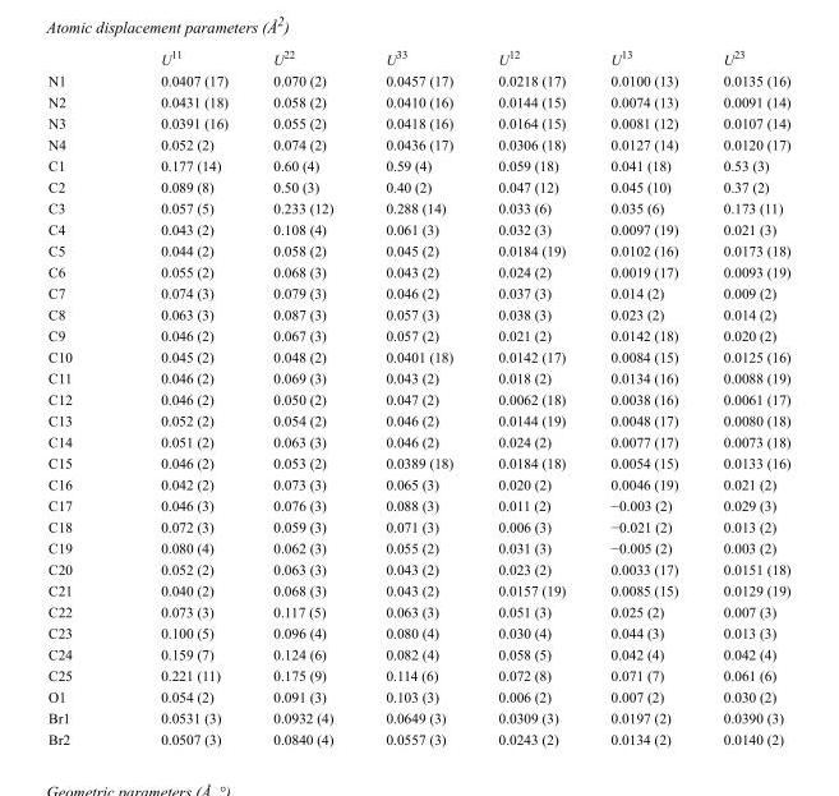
<table><thead><tr><td></td><td>U<sup>11</sup></td><td>U<sup>22</sup></td><td>U<sup>33</sup></td><td>U<sup>12</sup></td><td>U<sup>13</sup></td><td>U<sup>23</sup></td></tr></thead><tbody><tr><td>N1</td><td>0.0407 (17)</td><td>0.070 (2)</td><td>0.0457 (17)</td><td>0.0218 (17)</td><td>0.0100 (13)</td><td>0.0135 (16)</td></tr><tr><td>N2</td><td>0.0431 (18)</td><td>0.058 (2)</td><td>0.0410 (16)</td><td>0.0144 (15)</td><td>0.0074 (13)</td><td>0.0091 (14)</td></tr><tr><td>N3</td><td>0.0391 (16)</td><td>0.055 (2)</td><td>0.0418 (16)</td><td>0.0164 (15)</td><td>0.0081 (12)</td><td>0.0107 (14)</td></tr><tr><td>N4</td><td>0.052 (2)</td><td>0.074 (2)</td><td>0.0436 (17)</td><td>0.0306 (18)</td><td>0.0127 (14)</td><td>0.0120 (17)</td></tr><tr><td>C1</td><td>0.177 (14)</td><td>0.60 (4)</td><td>0.59 (4)</td><td>0.059 (18)</td><td>0.041 (18)</td><td>0.53 (3)</td></tr><tr><td>C2</td><td>0.089 (8)</td><td>0.50 (3)</td><td>0.40 (2)</td><td>0.047 (12)</td><td>0.045 (10)</td><td>0.37 (2)</td></tr><tr><td>C3</td><td>0.057 (5)</td><td>0.233 (12)</td><td>0.288 (14)</td><td>0.033 (6)</td><td>0.035 (6)</td><td>0.173 (11)</td></tr><tr><td>C4</td><td>0.043 (2)</td><td>0.108 (4)</td><td>0.061 (3)</td><td>0.032 (3)</td><td>0.0097 (19)</td><td>0.021 (3)</td></tr><tr><td>C5</td><td>0.044 (2)</td><td>0.058 (2)</td><td>0.045 (2)</td><td>0.0184 (19)</td><td>0.0102 (16)</td><td>0.0173 (18)</td></tr><tr><td>C6</td><td>0.055 (2)</td><td>0.068 (3)</td><td>0.043 (2)</td><td>0.024 (2)</td><td>0.0019 (17)</td><td>0.0093 (19)</td></tr><tr><td>C7</td><td>0.074 (3)</td><td>0.079 (3)</td><td>0.046 (2)</td><td>0.037 (3)</td><td>0.014 (2)</td><td>0.009 (2)</td></tr><tr><td>C8</td><td>0.063 (3)</td><td>0.087 (3)</td><td>0.057 (3)</td><td>0.038 (3)</td><td>0.023 (2)</td><td>0.014 (2)</td></tr><tr><td>C9</td><td>0.046 (2)</td><td>0.067 (3)</td><td>0.057 (2)</td><td>0.021 (2)</td><td>0.0142 (18)</td><td>0.020 (2)</td></tr><tr><td>C10</td><td>0.045 (2)</td><td>0.048 (2)</td><td>0.0401 (18)</td><td>0.0142 (17)</td><td>0.0084 (15)</td><td>0.0125 (16)</td></tr><tr><td>C11</td><td>0.046 (2)</td><td>0.069 (3)</td><td>0.043 (2)</td><td>0.018 (2)</td><td>0.0134 (16)</td><td>0.0088 (19)</td></tr><tr><td>C12</td><td>0.046 (2)</td><td>0.050 (2)</td><td>0.047 (2)</td><td>0.0062 (18)</td><td>0.0038 (16)</td><td>0.0061 (17)</td></tr><tr><td>C13</td><td>0.052 (2)</td><td>0.054 (2)</td><td>0.046 (2)</td><td>0.0144 (19)</td><td>0.0048 (17)</td><td>0.0080 (18)</td></tr><tr><td>C14</td><td>0.051 (2)</td><td>0.063 (3)</td><td>0.046 (2)</td><td>0.024 (2)</td><td>0.0077 (17)</td><td>0.0073 (18)</td></tr><tr><td>C15</td><td>0.046 (2)</td><td>0.053 (2)</td><td>0.0389 (18)</td><td>0.0184 (18)</td><td>0.0054 (15)</td><td>0.0133 (16)</td></tr><tr><td>C16</td><td>0.042 (2)</td><td>0.073 (3)</td><td>0.065 (3)</td><td>0.020 (2)</td><td>0.0046 (19)</td><td>0.021 (2)</td></tr><tr><td>C17</td><td>0.046 (3)</td><td>0.076 (3)</td><td>0.088 (3)</td><td>0.011 (2)</td><td>−0.003 (2)</td><td>0.029 (3)</td></tr><tr><td>C18</td><td>0.072 (3)</td><td>0.059 (3)</td><td>0.071 (3)</td><td>0.006 (3)</td><td>−0.021 (2)</td><td>0.013 (2)</td></tr><tr><td>C19</td><td>0.080 (4)</td><td>0.062 (3)</td><td>0.055 (2)</td><td>0.031 (3)</td><td>−0.005 (2)</td><td>0.003 (2)</td></tr><tr><td>C20</td><td>0.052 (2)</td><td>0.063 (3)</td><td>0.043 (2)</td><td>0.023 (2)</td><td>0.0033 (17)</td><td>0.0151 (18)</td></tr><tr><td>C21</td><td>0.040 (2)</td><td>0.068 (3)</td><td>0.043 (2)</td><td>0.0157 (19)</td><td>0.0085 (15)</td><td>0.0129 (19)</td></tr><tr><td>C22</td><td>0.073 (3)</td><td>0.117 (5)</td><td>0.063 (3)</td><td>0.051 (3)</td><td>0.025 (2)</td><td>0.007 (3)</td></tr><tr><td>C23</td><td>0.100 (5)</td><td>0.096 (4)</td><td>0.080 (4)</td><td>0.030 (4)</td><td>0.044 (3)</td><td>0.013 (3)</td></tr><tr><td>C24</td><td>0.159 (7)</td><td>0.124 (6)</td><td>0.082 (4)</td><td>0.058 (5)</td><td>0.042 (4)</td><td>0.042 (4)</td></tr><tr><td>C25</td><td>0.221 (11)</td><td>0.175 (9)</td><td>0.114 (6)</td><td>0.072 (8)</td><td>0.071 (7)</td><td>0.061 (6)</td></tr><tr><td>O1</td><td>0.054 (2)</td><td>0.091 (3)</td><td>0.103 (3)</td><td>0.006 (2)</td><td>0.007 (2)</td><td>0.030 (2)</td></tr><tr><td>Br1</td><td>0.0531 (3)</td><td>0.0932 (4)</td><td>0.0649 (3)</td><td>0.0309 (3)</td><td>0.0197 (2)</td><td>0.0390 (3)</td></tr><tr><td>Br2</td><td>0.0507 (3)</td><td>0.0840 (4)</td><td>0.0557 (3)</td><td>0.0243 (2)</td><td>0.0134 (2)</td><td>0.0140 (2)</td></tr></tbody></table>